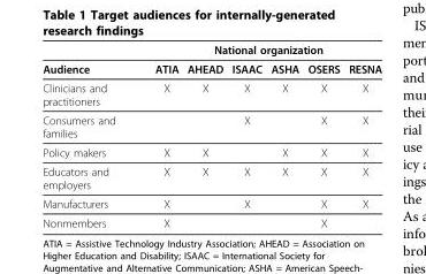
<table><thead><tr><td rowspan="2">Audience</td><td colspan="6">National organization</td></tr><tr><td>ATIA</td><td>AHEAD</td><td>ISAAC</td><td>ASHA</td><td>OSERS</td><td>RESNA</td></tr></thead><tbody><tr><td>Clinicians and practitioners</td><td>X</td><td>X</td><td>X</td><td>X</td><td>X</td><td>X</td></tr><tr><td>Consumers and families</td><td></td><td></td><td>X</td><td></td><td>X</td><td>X</td></tr><tr><td>Policy makers</td><td>X</td><td>X</td><td></td><td>X</td><td>X</td><td>X</td></tr><tr><td>Educators and employers</td><td>X</td><td>X</td><td>X</td><td>X</td><td>X</td><td>X</td></tr><tr><td>Manufacturers</td><td>X</td><td></td><td>X</td><td></td><td>X</td><td>X</td></tr><tr><td>Nonmembers</td><td>X</td><td></td><td></td><td></td><td>X</td><td></td></tr></tbody></table>